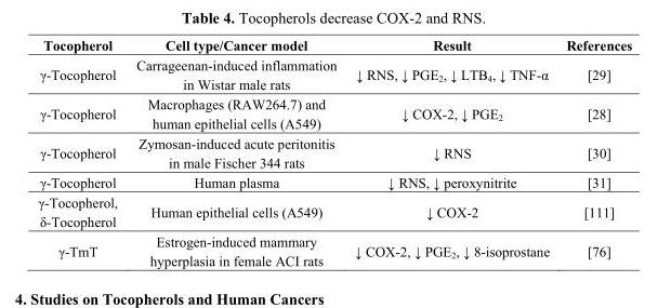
<table><thead><tr><td>Tocopherol</td><td>Cell type/Cancer model</td><td>Result</td><td>References</td></tr></thead><tbody><tr><td>γ-Tocopherol</td><td>Carrageenan-induced inflammation in Wistar male rats</td><td>↓ RNS, ↓ PGE<sub>2</sub>, ↓ LTB<sub>4</sub>, ↓ TNF-α</td><td>[29]</td></tr><tr><td>γ-Tocopherol</td><td>Macrophages (RAW264.7) and human epithelial cells (A549)</td><td>↓ COX-2, ↓ PGE<sub>2</sub></td><td>[28]</td></tr><tr><td>γ-Tocopherol</td><td>Zymosan-induced acute peritonitis in male Fischer 344 rats</td><td>↓ RNS</td><td>[30]</td></tr><tr><td>γ-Tocopherol</td><td>Human plasma</td><td>↓ RNS, ↓ peroxynitrite</td><td>[31]</td></tr><tr><td>γ-Tocopherol, δ-Tocopherol</td><td>Human epithelial cells (A549)</td><td>↓ COX-2</td><td>[111]</td></tr><tr><td>γ-TmT</td><td>Estrogen-induced mammary hyperplasia in female ACI rats</td><td>↓ COX-2, ↓ PGE<sub>2</sub>, ↓ 8-isoprostane</td><td>[76]</td></tr></tbody></table>